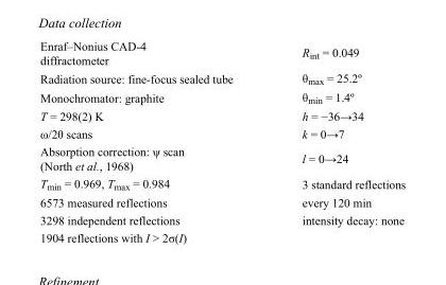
<table><tbody><tr><td>Enraf–Nonius CAD-4 diffractometer</td><td>R<sub>int</sub> = 0.049</td></tr><tr><td>Radiation source: fine-focus sealed tube</td><td>θ<sub>max</sub> = 25.2º</td></tr><tr><td>Monochromator: graphite</td><td>θ<sub>min</sub> = 1.4º</td></tr><tr><td>T = 298(2) K</td><td>h = −36→34</td></tr><tr><td>ω/2θ scans</td><td>k = 0→7</td></tr><tr><td>Absorption correction: ψ scan (North et al., 1968)</td><td>l = 0→24</td></tr><tr><td>T<sub>min</sub> = 0.969, T<sub>max</sub> = 0.984</td><td>3 standard reflections</td></tr><tr><td>6573 measured reflections</td><td>every 120 min</td></tr><tr><td>3298 independent reflections</td><td>intensity decay: none</td></tr><tr><td>1904 reflections with I &gt; 2σ(I)</td><td></td></tr></tbody></table>